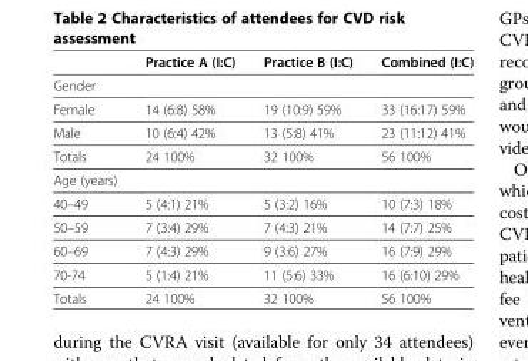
<table><thead><tr><td></td><td>Practice A (I:C)</td><td>Practice B (I:C)</td><td>Combined (I:C)</td></tr></thead><tbody><tr><td colspan="4">Gender</td></tr><tr><td>Female</td><td>14 (6:8) 58%</td><td>19 (10:9) 59%</td><td>33 (16:17) 59%</td></tr><tr><td>Male</td><td>10 (6:4) 42%</td><td>13 (5:8) 41%</td><td>23 (11:12) 41%</td></tr><tr><td>Totals</td><td>24 100%</td><td>32 100%</td><td>56 100%</td></tr><tr><td colspan="4">Age (years)</td></tr><tr><td>40–49</td><td>5 (4:1) 21%</td><td>5 (3:2) 16%</td><td>10 (7:3) 18%</td></tr><tr><td>50–59</td><td>7 (3:4) 29%</td><td>7 (4:3) 21%</td><td>14 (7:7) 25%</td></tr><tr><td>60–69</td><td>7 (4:3) 29%</td><td>9 (3:6) 27%</td><td>16 (7:9) 29%</td></tr><tr><td>70-74</td><td>5 (1:4) 21%</td><td>11 (5:6) 33%</td><td>16 (6:10) 29%</td></tr><tr><td>Totals</td><td>24 100%</td><td>32 100%</td><td>56 100%</td></tr></tbody></table>